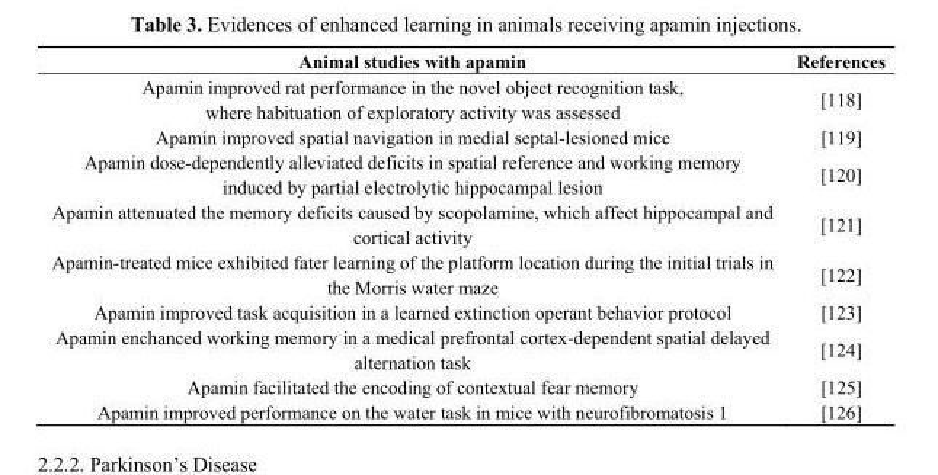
<table><thead><tr><td>Animal studies with apamin</td><td>References</td></tr></thead><tbody><tr><td>Apamin improved rat performance in the novel object recognition task, where habituation of exploratory activity was assessed</td><td>[118]</td></tr><tr><td>Apamin improved spatial navigation in medial septal-lesioned mice</td><td>[119]</td></tr><tr><td>Apamin dose-dependently alleviated deficits in spatial reference and working memory induced by partial electrolytic hippocampal lesion</td><td>[120]</td></tr><tr><td>Apamin attenuated the memory deficits caused by scopolamine, which affect hippocampal and cortical activity</td><td>[121]</td></tr><tr><td>Apamin-treated mice exhibited fater learning of the platform location during the initial trials in the Morris water maze</td><td>[122]</td></tr><tr><td>Apamin improved task acquisition in a learned extinction operant behavior protocol</td><td>[123]</td></tr><tr><td>Apamin enchanced working memory in a medical prefrontal cortex-dependent spatial delayed alternation task</td><td>[124]</td></tr><tr><td>Apamin facilitated the encoding of contextual fear memory</td><td>[125]</td></tr><tr><td>Apamin improved performance on the water task in mice with neurofibromatosis 1</td><td>[126]</td></tr></tbody></table>